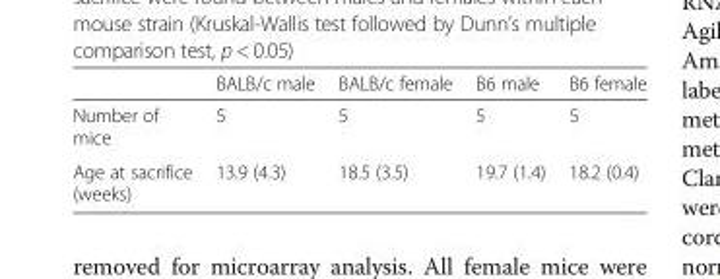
<table><thead><tr><td></td><td>BALB/c male</td><td>BALB/c female</td><td>B6 male</td><td>B6 female</td></tr></thead><tbody><tr><td>Number of mice</td><td>5</td><td>5</td><td>5</td><td>5</td></tr><tr><td>Age at sacrifice (weeks)</td><td>13.9 (4.3)</td><td>18.5 (3.5)</td><td>19.7 (1.4)</td><td>18.2 (0.4)</td></tr></tbody></table>